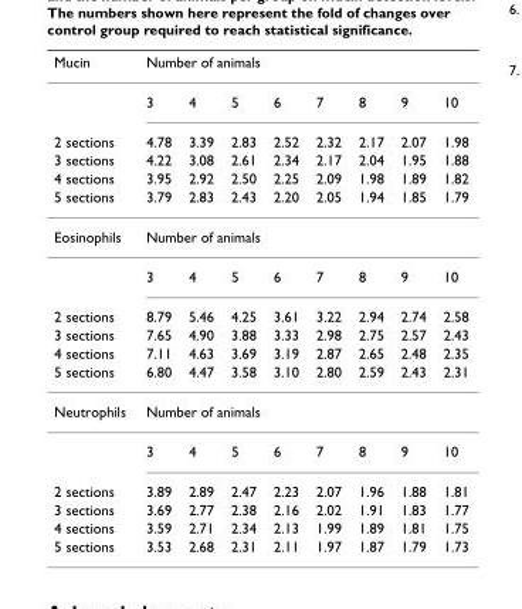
<table><thead><tr><td rowspan="2">Mucin</td><td colspan="8">Number of animals</td></tr><tr><td>3</td><td>4</td><td>5</td><td>6</td><td>7</td><td>8</td><td>9</td><td>10</td></tr></thead><tbody><tr><td>2 sections</td><td>4.78</td><td>3.39</td><td>2.83</td><td>2.52</td><td>2.32</td><td>2.17</td><td>2.07</td><td>1.98</td></tr><tr><td>3 sections</td><td>4.22</td><td>3.08</td><td>2.61</td><td>2.34</td><td>2.17</td><td>2.04</td><td>1.95</td><td>1.88</td></tr><tr><td>4 sections</td><td>3.95</td><td>2.92</td><td>2.50</td><td>2.25</td><td>2.09</td><td>1.98</td><td>1.89</td><td>1.82</td></tr><tr><td>5 sections</td><td>3.79</td><td>2.83</td><td>2.43</td><td>2.20</td><td>2.05</td><td>1.94</td><td>1.85</td><td>1.79</td></tr><tr><td rowspan="2">Eosinophils</td><td colspan="8">Number of animals</td></tr><tr><td>3</td><td>4</td><td>5</td><td>6</td><td>7</td><td>8</td><td>9</td><td>10</td></tr><tr><td>2 sections</td><td>8.79</td><td>5.46</td><td>4.25</td><td>3.61</td><td>3.22</td><td>2.94</td><td>2.74</td><td>2.58</td></tr><tr><td>3 sections</td><td>7.65</td><td>4.90</td><td>3.88</td><td>3.33</td><td>2.98</td><td>2.75</td><td>2.57</td><td>2.43</td></tr><tr><td>4 sections</td><td>7.11</td><td>4.63</td><td>3.69</td><td>3.19</td><td>2.87</td><td>2.65</td><td>2.48</td><td>2.35</td></tr><tr><td>5 sections</td><td>6.80</td><td>4.47</td><td>3.58</td><td>3.10</td><td>2.80</td><td>2.59</td><td>2.43</td><td>2.31</td></tr><tr><td rowspan="2">Neutrophils</td><td colspan="8">Number of animals</td></tr><tr><td>3</td><td>4</td><td>5</td><td>6</td><td>7</td><td>8</td><td>9</td><td>10</td></tr><tr><td>2 sections</td><td>3.89</td><td>2.89</td><td>2.47</td><td>2.23</td><td>2.07</td><td>1.96</td><td>1.88</td><td>1.81</td></tr><tr><td>3 sections</td><td>3.69</td><td>2.77</td><td>2.38</td><td>2.16</td><td>2.02</td><td>1.91</td><td>1.83</td><td>1.77</td></tr><tr><td>4 sections</td><td>3.59</td><td>2.71</td><td>2.34</td><td>2.13</td><td>1.99</td><td>1.89</td><td>1.81</td><td>1.75</td></tr><tr><td>5 sections</td><td>3.53</td><td>2.68</td><td>2.31</td><td>2.11</td><td>1.97</td><td>1.87</td><td>1.79</td><td>1.73</td></tr></tbody></table>